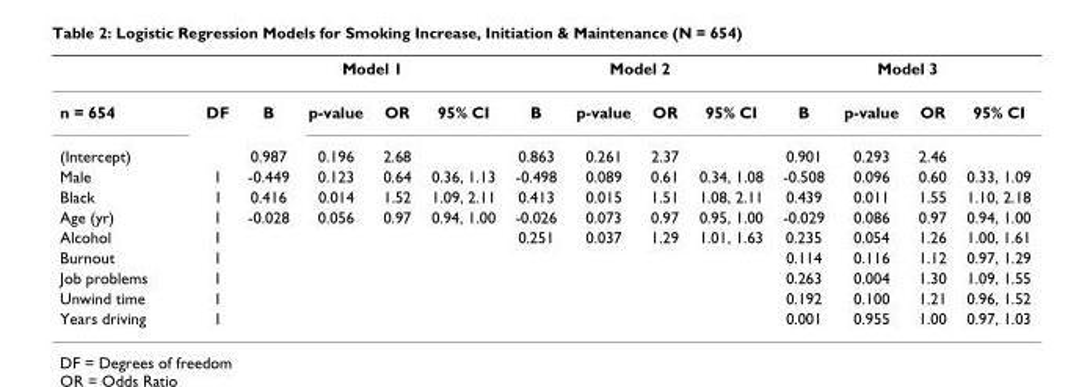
<table><thead><tr><td rowspan="2">n = 654</td><td rowspan="2">DF</td><td colspan="4">Model 1</td><td colspan="4">Model 2</td><td colspan="4">Model 3</td></tr><tr><td>B</td><td>p-value</td><td>OR</td><td>95% CI</td><td>B</td><td>p-value</td><td>OR</td><td>95% CI</td><td>B</td><td>p-value</td><td>OR</td><td>95% CI</td></tr></thead><tbody><tr><td>(Intercept)</td><td></td><td>0.987</td><td>0.196</td><td>2.68</td><td></td><td>0.863</td><td>0.261</td><td>2.37</td><td></td><td>0.901</td><td>0.293</td><td>2.46</td><td></td></tr><tr><td>Male</td><td>1</td><td>-0.449</td><td>0.123</td><td>0.64</td><td>0.36, 1.13</td><td>-0.498</td><td>0.089</td><td>0.61</td><td>0.34, 1.08</td><td>-0.508</td><td>0.096</td><td>0.60</td><td>0.33, 1.09</td></tr><tr><td>Black</td><td>1</td><td>0.416</td><td>0.014</td><td>1.52</td><td>1.09, 2.11</td><td>0.413</td><td>0.015</td><td>1.51</td><td>1.08, 2.11</td><td>0.439</td><td>0.011</td><td>1.55</td><td>1.10, 2.18</td></tr><tr><td>Age (yr)</td><td>1</td><td>-0.028</td><td>0.056</td><td>0.97</td><td>0.94, 1.00</td><td>-0.026</td><td>0.073</td><td>0.97</td><td>0.95, 1.00</td><td>-0.029</td><td>0.086</td><td>0.97</td><td>0.94, 1.00</td></tr><tr><td>Alcohol</td><td>1</td><td></td><td></td><td></td><td></td><td>0.251</td><td>0.037</td><td>1.29</td><td>1.01, 1.63</td><td>0.235</td><td>0.054</td><td>1.26</td><td>1.00, 1.61</td></tr><tr><td>Burnout</td><td>1</td><td></td><td></td><td></td><td></td><td></td><td></td><td></td><td></td><td>0.114</td><td>0.116</td><td>1.12</td><td>0.97, 1.29</td></tr><tr><td>Job problems</td><td>1</td><td></td><td></td><td></td><td></td><td></td><td></td><td></td><td></td><td>0.263</td><td>0.004</td><td>1.30</td><td>1.09, 1.55</td></tr><tr><td>Unwind time</td><td>1</td><td></td><td></td><td></td><td></td><td></td><td></td><td></td><td></td><td>0.192</td><td>0.100</td><td>1.21</td><td>0.96, 1.52</td></tr><tr><td>Years driving</td><td>1</td><td></td><td></td><td></td><td></td><td></td><td></td><td></td><td></td><td>0.001</td><td>0.955</td><td>1.00</td><td>0.97, 1.03</td></tr></tbody></table>